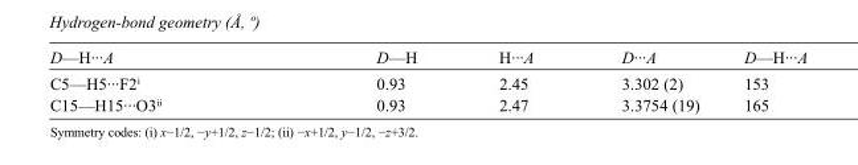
<table><tbody><tr><td>D—H···A</td><td>D—H</td><td>H···A</td><td>D···A</td><td>D—H···A</td></tr><tr><td>C5—H5···F2<sup>i</sup></td><td>0.93</td><td>2.45</td><td>3.302 (2)</td><td>153</td></tr><tr><td>C15—H15···O3<sup>ii</sup></td><td>0.93</td><td>2.47</td><td>3.3754 (19)</td><td>165</td></tr></tbody></table>